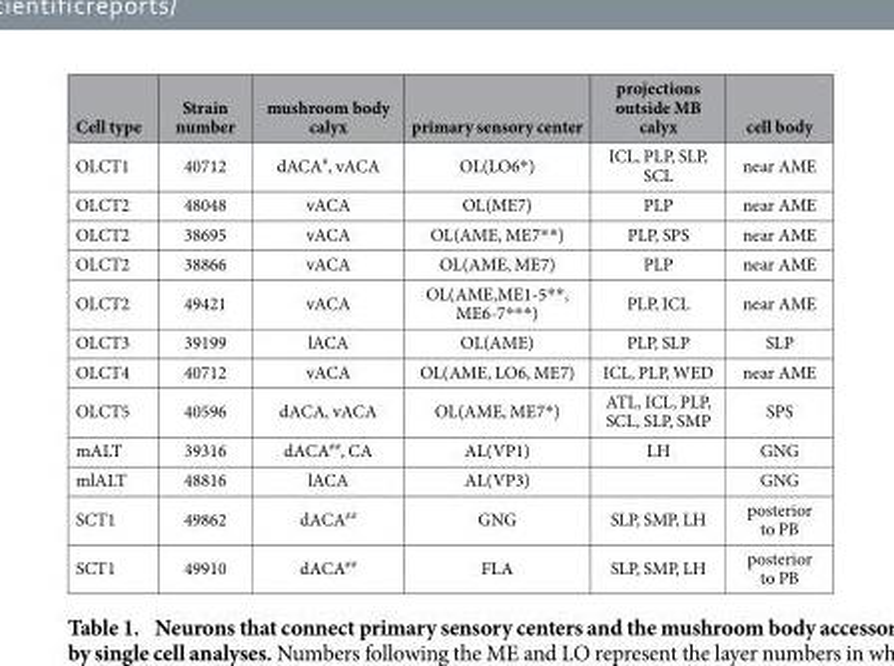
<table><thead><tr><td>Cell type</td><td>Strain number</td><td>mushroom body calyx</td><td>primary sensory center</td><td>projections outside MB calyx</td><td>cell body</td></tr></thead><tbody><tr><td>OLCT1</td><td>40712</td><td>dACA#, vACA</td><td>OL(LO6* )</td><td>ICL, PLP, SLP, SCL</td><td>near AME</td></tr><tr><td>OLCT2</td><td>48048</td><td>vACA</td><td>OL(ME7)</td><td>PLP</td><td>near AME</td></tr><tr><td>OLCT2</td><td>38695</td><td>vACA</td><td>OL(AME, ME7* * )</td><td>PLP, SPS</td><td>near AME</td></tr><tr><td>OLCT2</td><td>38866</td><td>vACA</td><td>OL(AME, ME7)</td><td>PLP</td><td>near AME</td></tr><tr><td>OLCT2</td><td>49421</td><td>vACA</td><td>OL(AME,ME1-5* * , ME6-7* * * )</td><td>PLP, ICL</td><td>near AME</td></tr><tr><td>OLCT3</td><td>39199</td><td>lACA</td><td>OL(AME)</td><td>PLP, SLP</td><td>SLP</td></tr><tr><td>OLCT4</td><td>40712</td><td>vACA</td><td>OL(AME, LO6, ME7)</td><td>ICL, PLP, WED</td><td>near AME</td></tr><tr><td>OLCT5</td><td>40596</td><td>dACA, vACA</td><td>OL(AME, ME7* )</td><td>ATL, ICL, PLP, SCL, SLP, SMP</td><td>SPS</td></tr><tr><td>mALT</td><td>39316</td><td>dACA##, CA</td><td>AL(VP1)</td><td>LH</td><td>GNG</td></tr><tr><td>mlALT</td><td>48816</td><td>lACA</td><td>AL(VP3)</td><td></td><td>GNG</td></tr><tr><td>SCT1</td><td>49862</td><td>dACA##</td><td>GNG</td><td>SLP, SMP, LH</td><td>posterior to PB</td></tr><tr><td>SCT1</td><td>49910</td><td>dACA##</td><td>FLA</td><td>SLP, SMP, LH</td><td>posterior to PB</td></tr></tbody></table>